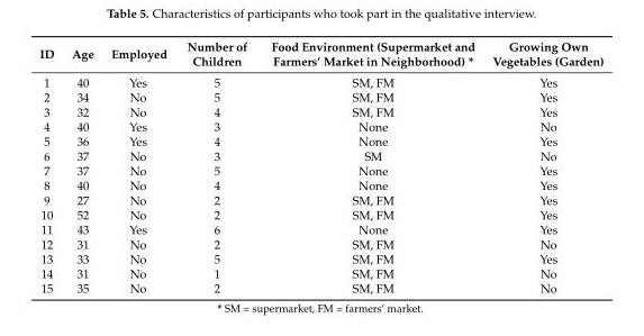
<table><thead><tr><td>ID</td><td>Age</td><td>Employed</td><td>Number of Children</td><td>Food Environment (Supermarket and Farmers’ Market in Neighborhood) *</td><td>Growing Own Vegetables (Garden)</td></tr></thead><tbody><tr><td>1</td><td>40</td><td>Yes</td><td>5</td><td>SM, FM</td><td>Yes</td></tr><tr><td>2</td><td>34</td><td>No</td><td>5</td><td>SM, FM</td><td>Yes</td></tr><tr><td>3</td><td>32</td><td>No</td><td>4</td><td>SM, FM</td><td>Yes</td></tr><tr><td>4</td><td>40</td><td>Yes</td><td>3</td><td>None</td><td>No</td></tr><tr><td>5</td><td>36</td><td>Yes</td><td>4</td><td>None</td><td>Yes</td></tr><tr><td>6</td><td>37</td><td>No</td><td>3</td><td>SM</td><td>No</td></tr><tr><td>7</td><td>37</td><td>No</td><td>5</td><td>None</td><td>Yes</td></tr><tr><td>8</td><td>40</td><td>No</td><td>4</td><td>None</td><td>Yes</td></tr><tr><td>9</td><td>27</td><td>No</td><td>2</td><td>SM, FM</td><td>Yes</td></tr><tr><td>10</td><td>52</td><td>No</td><td>2</td><td>SM, FM</td><td>Yes</td></tr><tr><td>11</td><td>43</td><td>Yes</td><td>6</td><td>None</td><td>Yes</td></tr><tr><td>12</td><td>31</td><td>No</td><td>2</td><td>SM, FM</td><td>No</td></tr><tr><td>13</td><td>33</td><td>No</td><td>5</td><td>SM, FM</td><td>Yes</td></tr><tr><td>14</td><td>31</td><td>No</td><td>1</td><td>SM, FM</td><td>No</td></tr><tr><td>15</td><td>35</td><td>No</td><td>2</td><td>SM, FM</td><td>No</td></tr></tbody></table>